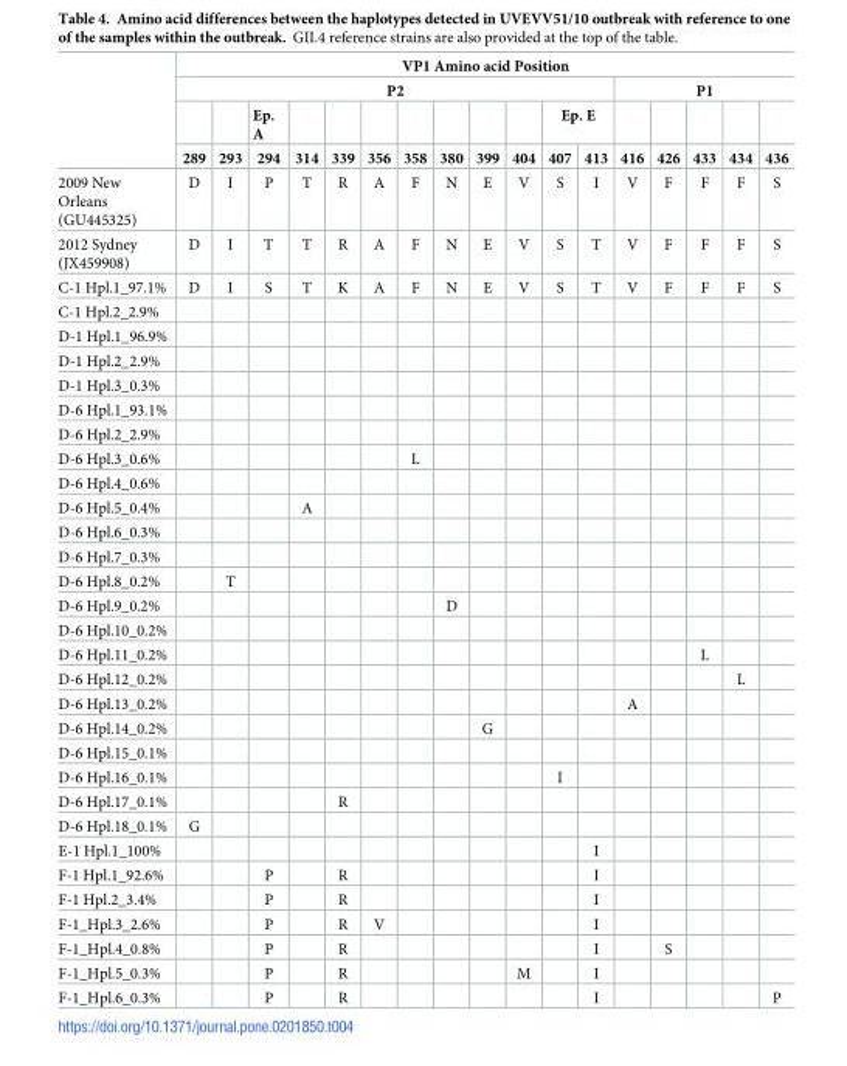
<table><thead><tr><td rowspan="4"></td><td colspan="17">VP1 Amino acid Position</td></tr><tr><td colspan="12">P2</td><td colspan="5">P1</td></tr><tr><td rowspan="2">289</td><td rowspan="2">293</td><td rowspan="2">Ep. A 294</td><td rowspan="2">314</td><td rowspan="2">339</td><td rowspan="2">356</td><td rowspan="2">358</td><td rowspan="2">380</td><td rowspan="2">399</td><td rowspan="2">404</td><td colspan="2">Ep. E</td><td rowspan="2">416</td><td rowspan="2">426</td><td rowspan="2">433</td><td rowspan="2">434</td><td rowspan="2">436</td></tr><tr><td>407</td><td>413</td></tr></thead><tbody><tr><td>2009 New Orleans (GU445325)</td><td>D</td><td>I</td><td>P</td><td>T</td><td>R</td><td>A</td><td>F</td><td>N</td><td>E</td><td>V</td><td>S</td><td>I</td><td>V</td><td>F</td><td>F</td><td>F</td><td>S</td></tr><tr><td>2012 Sydney (JX459908)</td><td>D</td><td>I</td><td>T</td><td>T</td><td>R</td><td>A</td><td>F</td><td>N</td><td>E</td><td>V</td><td>S</td><td>T</td><td>V</td><td>F</td><td>F</td><td>F</td><td>S</td></tr><tr><td>C-1 Hpl.1_97.1%</td><td>D</td><td>I</td><td>S</td><td>T</td><td>K</td><td>A</td><td>F</td><td>N</td><td>E</td><td>V</td><td>S</td><td>T</td><td>V</td><td>F</td><td>F</td><td>F</td><td>S</td></tr><tr><td colspan="18">C-1 Hpl.2_2.9%</td></tr><tr><td colspan="18">D-1 Hpl.1_96.9%</td></tr><tr><td colspan="18">D-1 Hpl.2_2.9%</td></tr><tr><td colspan="18">D-1 Hpl.3_0.3%</td></tr><tr><td colspan="18">D-6 Hpl.1_93.1%</td></tr><tr><td colspan="18">D-6 Hpl.2_2.9%</td></tr><tr><td>D-6 Hpl.3_0.6%</td><td></td><td></td><td></td><td></td><td></td><td></td><td>L</td><td></td><td></td><td></td><td></td><td></td><td></td><td></td><td></td><td></td><td></td></tr><tr><td colspan="18">D-6 Hpl.4_0.6%</td></tr><tr><td>D-6 Hpl.5_0.4%</td><td></td><td></td><td></td><td>A</td><td></td><td></td><td></td><td></td><td></td><td></td><td></td><td></td><td></td><td></td><td></td><td></td><td></td></tr><tr><td colspan="18">D-6 Hpl.6_0.3%</td></tr><tr><td colspan="18">D-6 Hpl.7_0.3%</td></tr><tr><td>D-6 Hpl.8_0.2%</td><td></td><td>T</td><td></td><td></td><td></td><td></td><td></td><td></td><td></td><td></td><td></td><td></td><td></td><td></td><td></td><td></td><td></td></tr><tr><td>D-6 Hpl.9_0.2%</td><td></td><td></td><td></td><td></td><td></td><td></td><td></td><td>D</td><td></td><td></td><td></td><td></td><td></td><td></td><td></td><td></td><td></td></tr><tr><td colspan="18">D-6 Hpl.10_0.2%</td></tr><tr><td>D-6 Hpl.11_0.2%</td><td></td><td></td><td></td><td></td><td></td><td></td><td></td><td></td><td></td><td></td><td></td><td></td><td></td><td></td><td>L</td><td></td><td></td></tr><tr><td>D-6 Hpl.12_0.2%</td><td></td><td></td><td></td><td></td><td></td><td></td><td></td><td></td><td></td><td></td><td></td><td></td><td></td><td></td><td></td><td>L</td><td></td></tr><tr><td>D-6 Hpl.13_0.2%</td><td></td><td></td><td></td><td></td><td></td><td></td><td></td><td></td><td></td><td></td><td></td><td></td><td>A</td><td></td><td></td><td></td><td></td></tr><tr><td>D-6 Hpl.14_0.2%</td><td></td><td></td><td></td><td></td><td></td><td></td><td></td><td></td><td>G</td><td></td><td></td><td></td><td></td><td></td><td></td><td></td><td></td></tr><tr><td colspan="18">D-6 Hpl.15_0.1%</td></tr><tr><td>D-6 Hpl.16_0.1%</td><td></td><td></td><td></td><td></td><td></td><td></td><td></td><td></td><td></td><td></td><td>I</td><td></td><td></td><td></td><td></td><td></td><td></td></tr><tr><td>D-6 Hpl.17_0.1%</td><td></td><td></td><td></td><td></td><td>R</td><td></td><td></td><td></td><td></td><td></td><td></td><td></td><td></td><td></td><td></td><td></td><td></td></tr><tr><td>D-6 Hpl.18_0.1%</td><td>G</td><td></td><td></td><td></td><td></td><td></td><td></td><td></td><td></td><td></td><td></td><td></td><td></td><td></td><td></td><td></td><td></td></tr><tr><td>E-1 Hpl.1_100%</td><td></td><td></td><td></td><td></td><td></td><td></td><td></td><td></td><td></td><td></td><td></td><td>I</td><td></td><td></td><td></td><td></td><td></td></tr><tr><td>F-1 Hpl.1_92.6%</td><td></td><td></td><td>P</td><td></td><td>R</td><td></td><td></td><td></td><td></td><td></td><td></td><td>I</td><td></td><td></td><td></td><td></td><td></td></tr><tr><td>F-1 Hpl.2_3.4%</td><td></td><td></td><td>P</td><td></td><td>R</td><td></td><td></td><td></td><td></td><td></td><td></td><td>I</td><td></td><td></td><td></td><td></td><td></td></tr><tr><td>F-1_Hpl.3_2.6%</td><td></td><td></td><td>P</td><td></td><td>R</td><td>V</td><td></td><td></td><td></td><td></td><td></td><td>I</td><td></td><td></td><td></td><td></td><td></td></tr><tr><td>F-1_Hpl.4_0.8%</td><td></td><td></td><td>P</td><td></td><td>R</td><td></td><td></td><td></td><td></td><td></td><td></td><td>I</td><td></td><td>S</td><td></td><td></td><td></td></tr><tr><td>F-1_Hpl.5_0.3%</td><td></td><td></td><td>P</td><td></td><td>R</td><td></td><td></td><td></td><td></td><td>M</td><td></td><td>I</td><td></td><td></td><td></td><td></td><td></td></tr><tr><td>F-1_Hpl.6_0.3%</td><td></td><td></td><td>P</td><td></td><td>R</td><td></td><td></td><td></td><td></td><td></td><td></td><td>I</td><td></td><td></td><td></td><td></td><td>P</td></tr></tbody></table>